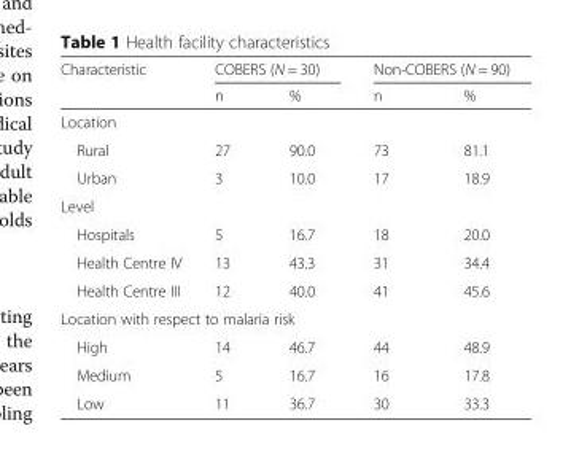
<table><thead><tr><td rowspan="2">Characteristic</td><td colspan="2">COBERS (N = 30)</td><td colspan="2">Non-COBERS (N = 90)</td></tr><tr><td>n</td><td>%</td><td>n</td><td>%</td></tr></thead><tbody><tr><td colspan="5">Location</td></tr><tr><td>Rural</td><td>27</td><td>90.0</td><td>73</td><td>81.1</td></tr><tr><td>Urban</td><td>3</td><td>10.0</td><td>17</td><td>18.9</td></tr><tr><td colspan="5">Level</td></tr><tr><td>Hospitals</td><td>5</td><td>16.7</td><td>18</td><td>20.0</td></tr><tr><td>Health Centre IV</td><td>13</td><td>43.3</td><td>31</td><td>34.4</td></tr><tr><td>Health Centre III</td><td>12</td><td>40.0</td><td>41</td><td>45.6</td></tr><tr><td colspan="5">Location with respect to malaria risk</td></tr><tr><td>High</td><td>14</td><td>46.7</td><td>44</td><td>48.9</td></tr><tr><td>Medium</td><td>5</td><td>16.7</td><td>16</td><td>17.8</td></tr><tr><td>Low</td><td>11</td><td>36.7</td><td>30</td><td>33.3</td></tr></tbody></table>